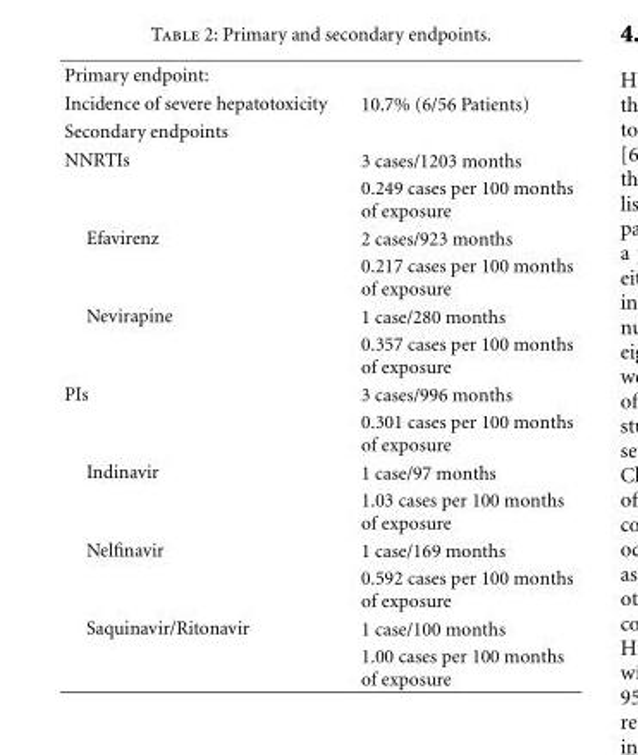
<table><tbody><tr><td colspan="2">Primary endpoint:</td></tr><tr><td>Incidence of severe hepatotoxicity</td><td>10.7% (6/56 Patients)</td></tr><tr><td colspan="2">Secondary endpoints</td></tr><tr><td rowspan="2">NNRTIs</td><td>3 cases/1203 months</td></tr><tr><td>0.249 cases per 100 months of exposure</td></tr><tr><td rowspan="2">Efavirenz</td><td>2 cases/923 months</td></tr><tr><td>0.217 cases per 100 months of exposure</td></tr><tr><td rowspan="2">Nevirapine</td><td>1 case/280 months</td></tr><tr><td>0.357 cases per 100 months of exposure</td></tr><tr><td rowspan="2">PIs</td><td>3 cases/996 months</td></tr><tr><td>0.301 cases per 100 months of exposure</td></tr><tr><td rowspan="2">Indinavir</td><td>1 case/97 months</td></tr><tr><td>1.03 cases per 100 months of exposure</td></tr><tr><td rowspan="2">Nelfinavir</td><td>1 case/169 months</td></tr><tr><td>0.592 cases per 100 months of exposure</td></tr><tr><td rowspan="2">Saquinavir/Ritonavir</td><td>1 case/100 months</td></tr><tr><td>1.00 cases per 100 months of exposure</td></tr></tbody></table>